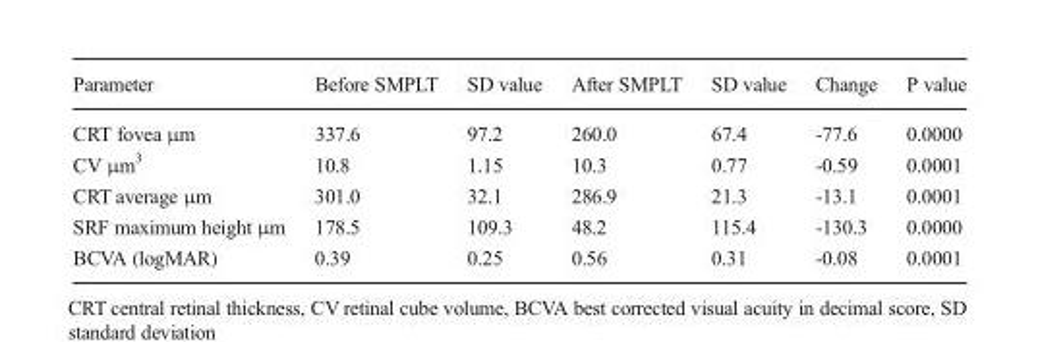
<table><thead><tr><td>Parameter</td><td>Before SMPLT</td><td>SD value</td><td>After SMPLT</td><td>SD value</td><td>Change</td><td>P value</td></tr></thead><tbody><tr><td>CRT fovea μm</td><td>337.6</td><td>97.2</td><td>260.0</td><td>67.4</td><td>-77.6</td><td>0.0000</td></tr><tr><td>CV μm<sup>3</sup></td><td>10.8</td><td>1.15</td><td>10.3</td><td>0.77</td><td>-0.59</td><td>0.0001</td></tr><tr><td>CRT average μm</td><td>301.0</td><td>32.1</td><td>286.9</td><td>21.3</td><td>-13.1</td><td>0.0001</td></tr><tr><td>SRF maximum height μm</td><td>178.5</td><td>109.3</td><td>48.2</td><td>115.4</td><td>-130.3</td><td>0.0000</td></tr><tr><td>BCVA (logMAR)</td><td>0.39</td><td>0.25</td><td>0.56</td><td>0.31</td><td>-0.08</td><td>0.0001</td></tr></tbody></table>